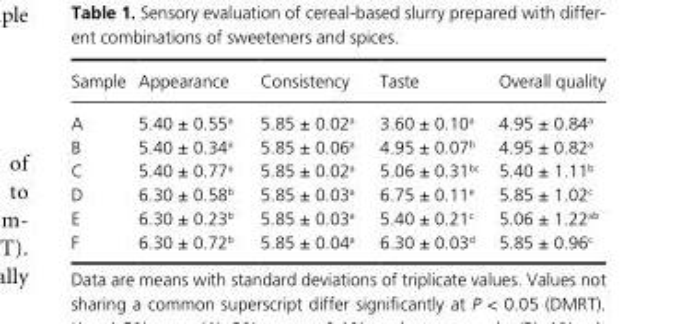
<table><thead><tr><td>Sample</td><td>Appearance</td><td>Consistency</td><td>Taste</td><td>Overall quality</td></tr></thead><tbody><tr><td>A</td><td>5.40 ± 0.55<sup>a</sup></td><td>5.85 ± 0.02<sup>a</sup></td><td>3.60 ± 0.10<sup>a</sup></td><td>4.95 ± 0.84<sup>a</sup></td></tr><tr><td>B</td><td>5.40 ± 0.34<sup>a</sup></td><td>5.85 ± 0.06<sup>a</sup></td><td>4.95 ± 0.07<sup>b</sup></td><td>4.95 ± 0.82<sup>a</sup></td></tr><tr><td>C</td><td>5.40 ± 0.77<sup>a</sup></td><td>5.85 ± 0.02<sup>a</sup></td><td>5.06 ± 0.31<sup>bc</sup></td><td>5.40 ± 1.11<sup>b</sup></td></tr><tr><td>D</td><td>6.30 ± 0.58<sup>b</sup></td><td>5.85 ± 0.03<sup>a</sup></td><td>6.75 ± 0.11<sup>e</sup></td><td>5.85 ± 1.02<sup>c</sup></td></tr><tr><td>E</td><td>6.30 ± 0.23<sup>b</sup></td><td>5.85 ± 0.03<sup>a</sup></td><td>5.40 ± 0.21<sup>c</sup></td><td>5.06 ± 1.22<sup>ab</sup></td></tr><tr><td>F</td><td>6.30 ± 0.72<sup>b</sup></td><td>5.85 ± 0.04<sup>a</sup></td><td>6.30 ± 0.03<sup>d</sup></td><td>5.85 ± 0.96<sup>c</sup></td></tr></tbody></table>